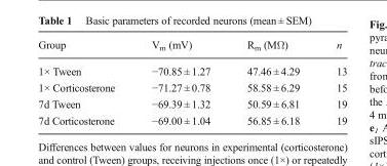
<table><thead><tr><td>Group</td><td>V<sub>m</sub> (mV)</td><td>R<sub>m</sub> (MΩ)</td><td>n</td></tr></thead><tbody><tr><td>1× Tween</td><td>−70.85 ± 1.27</td><td>47.46 ± 4.29</td><td>13</td></tr><tr><td>1× Corticosterone</td><td>−71.27 ± 0.78</td><td>58.58 ± 6.29</td><td>15</td></tr><tr><td>7d Tween</td><td>−69.39 ± 1.32</td><td>50.59 ± 6.81</td><td>19</td></tr><tr><td>7d Corticosterone</td><td>−69.00 ± 1.04</td><td>56.85 ± 6.18</td><td>19</td></tr></tbody></table>